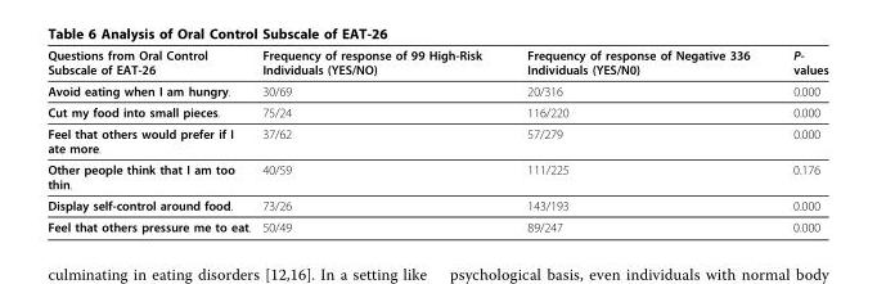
<table><thead><tr><td>Questions from Oral Control Subscale of EAT-26</td><td>Frequency of response of 99 High-Risk Individuals (YES/NO)</td><td>Frequency of response of Negative 336 Individuals (YES/N0)</td><td>P- values</td></tr></thead><tbody><tr><td>Avoid eating when I am hungry.</td><td>30/69</td><td>20/316</td><td>0.000</td></tr><tr><td>Cut my food into small pieces.</td><td>75/24</td><td>116/220</td><td>0.000</td></tr><tr><td>Feel that others would prefer if I ate more.</td><td>37/62</td><td>57/279</td><td>0.000</td></tr><tr><td>Other people think that I am too thin.</td><td>40/59</td><td>111/225</td><td>0.176</td></tr><tr><td>Display self-control around food.</td><td>73/26</td><td>143/193</td><td>0.000</td></tr><tr><td>Feel that others pressure me to eat.</td><td>50/49</td><td>89/247</td><td>0.000</td></tr></tbody></table>